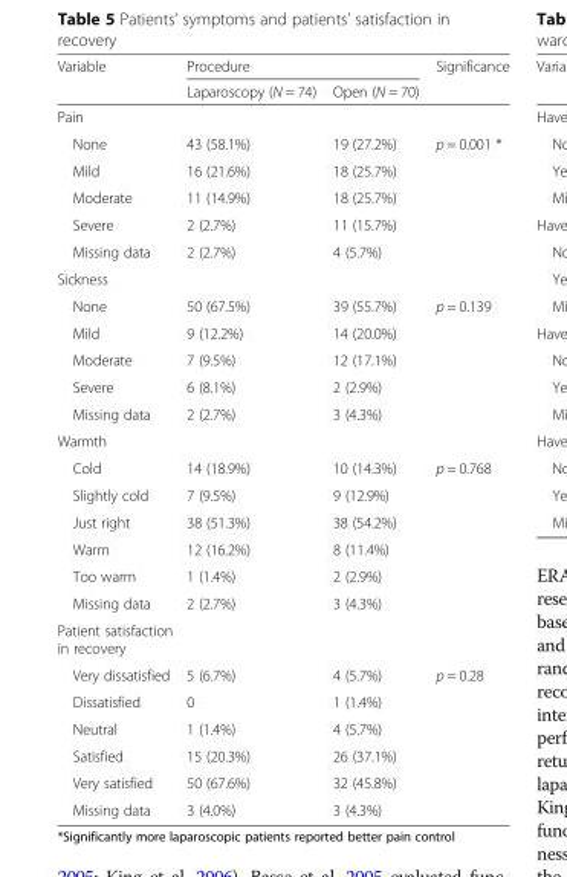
<table><thead><tr><td rowspan="2">Variable</td><td colspan="2">Procedure</td><td rowspan="2">Significance</td></tr><tr><td>Laparoscopy (N = 74)</td><td>Open (N = 70)</td></tr></thead><tbody><tr><td colspan="4">Pain</td></tr><tr><td>None</td><td>43 (58.1%)</td><td>19 (27.2%)</td><td rowspan="5">p = 0.001 *</td></tr><tr><td>Mild</td><td>16 (21.6%)</td><td>18 (25.7%)</td></tr><tr><td>Moderate</td><td>11 (14.9%)</td><td>18 (25.7%)</td></tr><tr><td>Severe</td><td>2 (2.7%)</td><td>11 (15.7%)</td></tr><tr><td>Missing data</td><td>2 (2.7%)</td><td>4 (5.7%)</td></tr><tr><td colspan="4">Sickness</td></tr><tr><td>None</td><td>50 (67.5%)</td><td>39 (55.7%)</td><td rowspan="5">p = 0.139</td></tr><tr><td>Mild</td><td>9 (12.2%)</td><td>14 (20.0%)</td></tr><tr><td>Moderate</td><td>7 (9.5%)</td><td>12 (17.1%)</td></tr><tr><td>Severe</td><td>6 (8.1%)</td><td>2 (2.9%)</td></tr><tr><td>Missing data</td><td>2 (2.7%)</td><td>3 (4.3%)</td></tr><tr><td colspan="4">Warmth</td></tr><tr><td>Cold</td><td>14 (18.9%)</td><td>10 (14.3%)</td><td rowspan="6">p = 0.768</td></tr><tr><td>Slightly cold</td><td>7 (9.5%)</td><td>9 (12.9%)</td></tr><tr><td>Just right</td><td>38 (51.3%)</td><td>38 (54.2%)</td></tr><tr><td>Warm</td><td>12 (16.2%)</td><td>8 (11.4%)</td></tr><tr><td>Too warm</td><td>1 (1.4%)</td><td>2 (2.9%)</td></tr><tr><td>Missing data</td><td>2 (2.7%)</td><td>3 (4.3%)</td></tr><tr><td colspan="4">Patient satisfaction in recovery</td></tr><tr><td>Very dissatisfied</td><td>5 (6.7%)</td><td>4 (5.7%)</td><td rowspan="6">p = 0.28</td></tr><tr><td>Dissatisfied</td><td>0</td><td>1 (1.4%)</td></tr><tr><td>Neutral</td><td>1 (1.4%)</td><td>4 (5.7%)</td></tr><tr><td>Satisfied</td><td>15 (20.3%)</td><td>26 (37.1%)</td></tr><tr><td>Very satisfied</td><td>50 (67.6%)</td><td>32 (45.8%)</td></tr><tr><td>Missing data</td><td>3 (4.0%)</td><td>3 (4.3%)</td></tr></tbody></table>